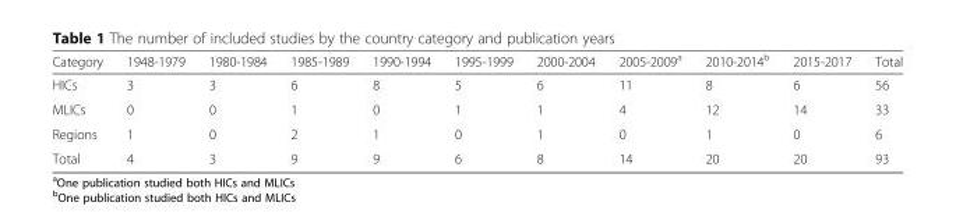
<table><thead><tr><td>Category</td><td>1948-1979</td><td>1980-1984</td><td>1985-1989</td><td>1990-1994</td><td>1995-1999</td><td>2000-2004</td><td>2005-2009<sup>a</sup></td><td>2010-2014<sup>b</sup></td><td>2015-2017</td><td>Total</td></tr></thead><tbody><tr><td>HICs</td><td>3</td><td>3</td><td>6</td><td>8</td><td>5</td><td>6</td><td>11</td><td>8</td><td>6</td><td>56</td></tr><tr><td>MLICs</td><td>0</td><td>0</td><td>1</td><td>0</td><td>1</td><td>1</td><td>4</td><td>12</td><td>14</td><td>33</td></tr><tr><td>Regions</td><td>1</td><td>0</td><td>2</td><td>1</td><td>0</td><td>1</td><td>0</td><td>1</td><td>0</td><td>6</td></tr><tr><td>Total</td><td>4</td><td>3</td><td>9</td><td>9</td><td>6</td><td>8</td><td>14</td><td>20</td><td>20</td><td>93</td></tr></tbody></table>